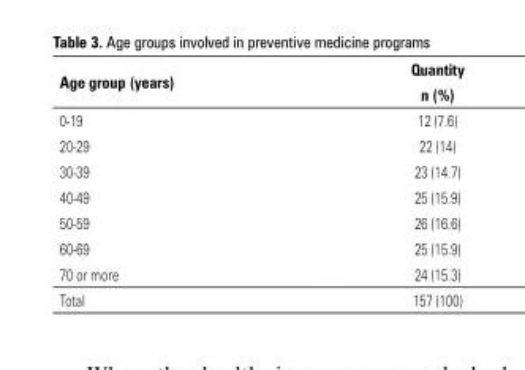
<table><thead><tr><td>age group (years)</td><td>Quantity n (%)</td></tr></thead><tbody><tr><td>0-19</td><td>12 (7.6)</td></tr><tr><td>20-29</td><td>22 (14)</td></tr><tr><td>30-39</td><td>23 (14.7)</td></tr><tr><td>40-49</td><td>25 (15.9)</td></tr><tr><td>50-59</td><td>26 (16.6)</td></tr><tr><td>60-69</td><td>25 (15.9)</td></tr><tr><td>70 or more</td><td>24 (15.3)</td></tr><tr><td>Total</td><td>157 (100)</td></tr></tbody></table>